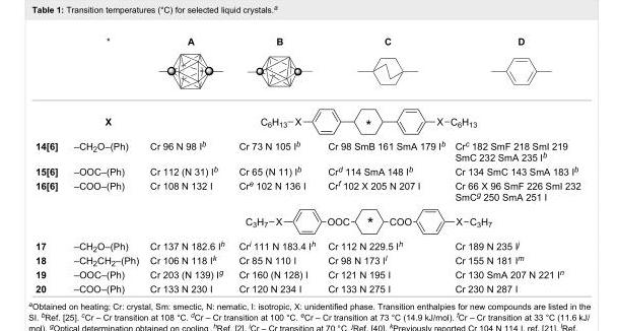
<table><thead><tr><td></td><td>*</td><td>A</td><td>B</td><td>C</td><td>D</td></tr></thead><tbody><tr><td></td><td>X</td><td colspan="4"></td></tr><tr><td>14[6]</td><td>–CH<sub>2</sub>O–(Ph)</td><td>Cr 96 N 98 I<sup>b</sup></td><td>Cr 73 N 105 I<sup>b</sup></td><td>Cr 98 SmB 161 SmA 179 I<sup>b</sup></td><td>Cr<sup>c</sup> 182 SmF 218 SmI 219 SmC 232 SmA 235 I<sup>b</sup></td></tr><tr><td>15[6]</td><td>–OOC–(Ph)</td><td>Cr 112 (N 31) I<sup>b</sup></td><td>Cr 65 (N 11) I<sup>b</sup></td><td>Cr<sup>d</sup> 114 SmA 148 I<sup>b</sup></td><td>Cr 134 SmC 143 SmA 183 I<sup>b</sup></td></tr><tr><td>16[6]</td><td>–COO–(Ph)</td><td>Cr 108 N 132 I</td><td>Cr<sup>e</sup> 102 N 136 I</td><td>Cr<sup>f</sup> 102 X 205 N 207 I</td><td>Cr 66 X 96 SmF 226 SmI 232 SmC<sup>g</sup> 250 SmA 251 I</td></tr><tr><td>17</td><td>–CH<sub>2</sub>O–(Ph)</td><td>Cr 137 N 182.6 I<sup>h</sup></td><td>Cr<sup>i</sup> 111 N 183.4 I<sup>h</sup></td><td>Cr 112 N 229.5 I<sup>h</sup></td><td>Cr 189 N 235 I<sup>j</sup></td></tr><tr><td>18</td><td>–CH<sub>2</sub>CH<sub>2</sub>–(Ph)</td><td>Cr 106 N 118 I<sup>k</sup></td><td>Cr 85 N 110 I</td><td>Cr 98 N 173 I<sup>l</sup></td><td>Cr 155 N 181 I<sup>m</sup></td></tr><tr><td>19</td><td>–OOC–(Ph)</td><td>Cr 203 (N 139) I<sup>g</sup></td><td>Cr 160 (N 128) I</td><td>Cr 121 N 195 I</td><td>Cr 130 SmA 207 N 221 I<sup>n</sup></td></tr><tr><td>20</td><td>–COO–(Ph)</td><td>Cr 133 N 230 I</td><td>Cr 120 N 234 I</td><td>Cr 133 N 275 I</td><td>Cr 230 N 287 I</td></tr></tbody></table>